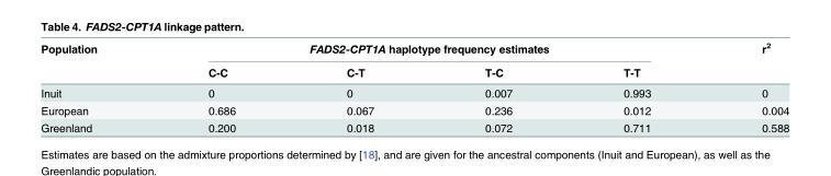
<table><thead><tr><td rowspan="2">Population</td><td colspan="4">FADS2-CPT1A haplotype frequency estimates</td><td rowspan="2">r<sup>2</sup></td></tr><tr><td>C-C</td><td>C-T</td><td>T-C</td><td>T-T</td></tr></thead><tbody><tr><td>Inuit</td><td>0</td><td>0</td><td>0.007</td><td>0.993</td><td>0</td></tr><tr><td>European</td><td>0.686</td><td>0.067</td><td>0.236</td><td>0.012</td><td>0.004</td></tr><tr><td>Greenland</td><td>0.200</td><td>0.018</td><td>0.072</td><td>0.711</td><td>0.588</td></tr></tbody></table>